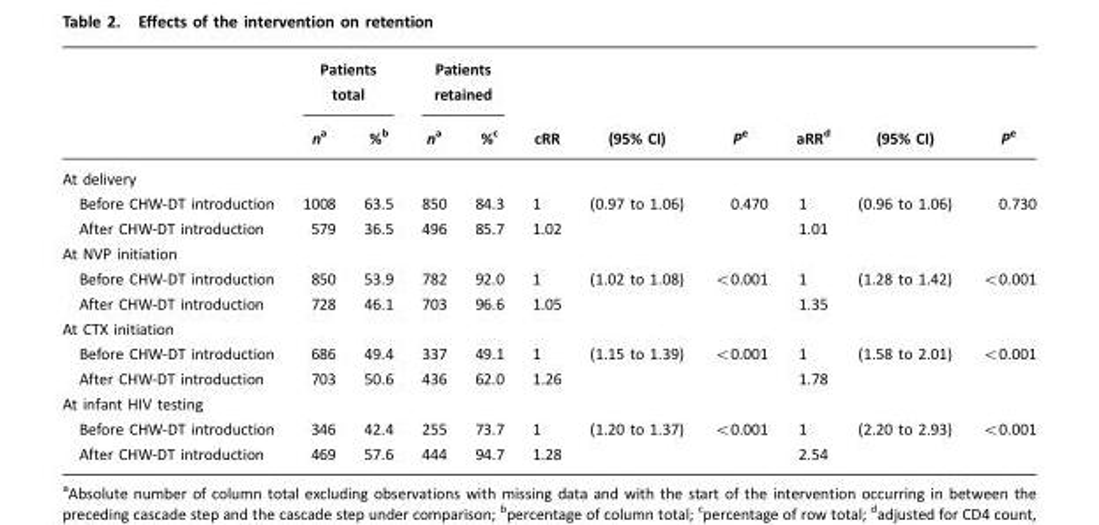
<table><thead><tr><td rowspan="2"></td><td colspan="2">Patients total</td><td colspan="2">Patients retained</td><td rowspan="2">cRR</td><td rowspan="2">(95% CI)</td><td rowspan="2">Pe</td><td rowspan="2">aRR<sup>d</sup></td><td rowspan="2">(95% CI)</td><td rowspan="2">Pe</td></tr><tr><td>na</td><td>%<sup>b</sup></td><td>na</td><td>%<sup>c</sup></td></tr></thead><tbody><tr><td colspan="11">At delivery</td></tr><tr><td>Before CHW-DT introduction</td><td>1008</td><td>63.5</td><td>850</td><td>84.3</td><td>1</td><td>(0.97 to 1.06)</td><td>0.470</td><td>1</td><td>(0.96 to 1.06)</td><td>0.730</td></tr><tr><td>After CHW-DT introduction</td><td>579</td><td>36.5</td><td>496</td><td>85.7</td><td>1.02</td><td></td><td></td><td>1.01</td><td></td><td></td></tr><tr><td colspan="11">At NVP initiation</td></tr><tr><td>Before CHW-DT introduction</td><td>850</td><td>53.9</td><td>782</td><td>92.0</td><td>1</td><td>(1.02 to 1.08)</td><td>&lt;0.001</td><td>1</td><td>(1.28 to 1.42)</td><td>&lt;0.001</td></tr><tr><td>After CHW-DT introduction</td><td>728</td><td>46.1</td><td>703</td><td>96.6</td><td>1.05</td><td></td><td></td><td>1.35</td><td></td><td></td></tr><tr><td colspan="11">At CTX initiation</td></tr><tr><td>Before CHW-DT introduction</td><td>686</td><td>49.4</td><td>337</td><td>49.1</td><td>1</td><td>(1.15 to 1.39)</td><td>&lt;0.001</td><td>1</td><td>(1.58 to 2.01)</td><td>&lt;0.001</td></tr><tr><td>After CHW-DT introduction</td><td>703</td><td>50.6</td><td>436</td><td>62.0</td><td>1.26</td><td></td><td></td><td>1.78</td><td></td><td></td></tr><tr><td colspan="11">At infant HIV testing</td></tr><tr><td>Before CHW-DT introduction</td><td>346</td><td>42.4</td><td>255</td><td>73.7</td><td>1</td><td>(1.20 to 1.37)</td><td>&lt;0.001</td><td>1</td><td>(2.20 to 2.93)</td><td>&lt;0.001</td></tr><tr><td>After CHW-DT introduction</td><td>469</td><td>57.6</td><td>444</td><td>94.7</td><td>1.28</td><td></td><td></td><td>2.54</td><td></td><td></td></tr></tbody></table>